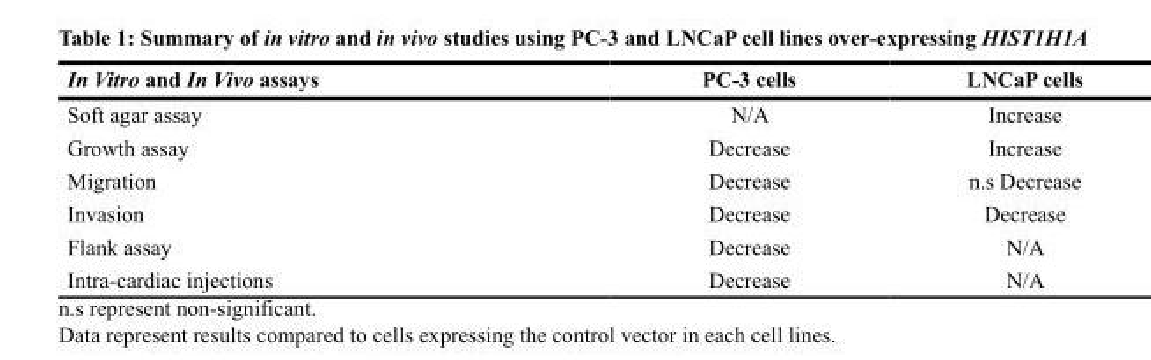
<table><thead><tr><td>In Vitro and In Vivo assays</td><td>PC-3 cells</td><td>LNCaP cells</td></tr></thead><tbody><tr><td>Soft agar assay</td><td>N/A</td><td>Increase</td></tr><tr><td>Growth assay</td><td>Decrease</td><td>Increase</td></tr><tr><td>Migration</td><td>Decrease</td><td>n.s Decrease</td></tr><tr><td>Invasion</td><td>Decrease</td><td>Decrease</td></tr><tr><td>Flank assay</td><td>Decrease</td><td>N/A</td></tr><tr><td>Intra-cardiac injections</td><td>Decrease</td><td>N/A</td></tr></tbody></table>